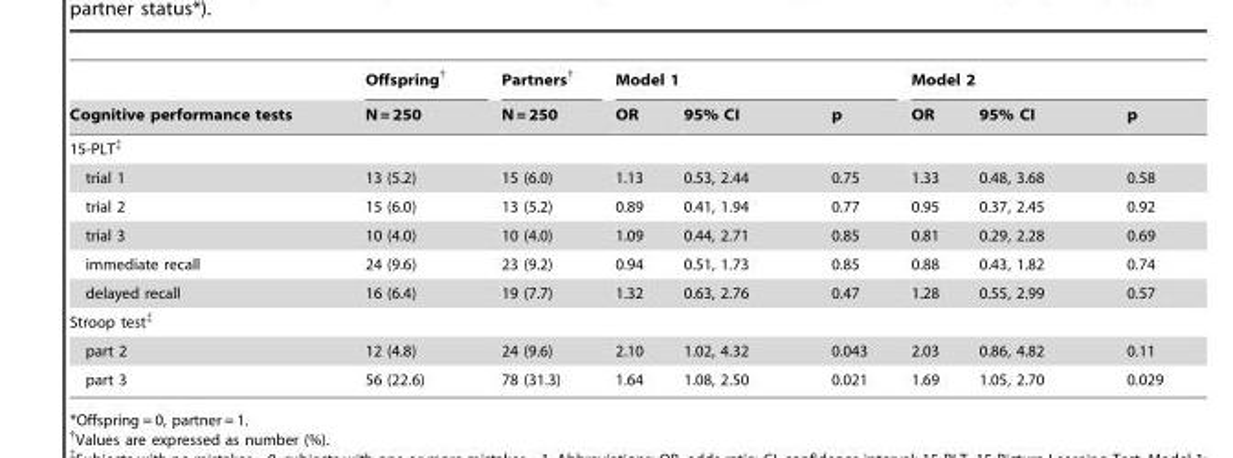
<table><thead><tr><td rowspan="2">Cognitive performance tests</td><td rowspan="2">Offspring† N = 250</td><td rowspan="2">Partners† N = 250</td><td colspan="3">Model 1</td><td colspan="3">Model 2</td></tr><tr><td>OR</td><td>95% CI</td><td>p</td><td>OR</td><td>95% CI</td><td>p</td></tr></thead><tbody><tr><td colspan="9">15-PLT‡</td></tr><tr><td>trial 1</td><td>13 (5.2)</td><td>15 (6.0)</td><td>1.13</td><td>0.53, 2.44</td><td>0.75</td><td>1.33</td><td>0.48, 3.68</td><td>0.58</td></tr><tr><td>trial 2</td><td>15 (6.0)</td><td>13 (5.2)</td><td>0.89</td><td>0.41, 1.94</td><td>0.77</td><td>0.95</td><td>0.37, 2.45</td><td>0.92</td></tr><tr><td>trial 3</td><td>10 (4.0)</td><td>10 (4.0)</td><td>1.09</td><td>0.44, 2.71</td><td>0.85</td><td>0.81</td><td>0.29, 2.28</td><td>0.69</td></tr><tr><td>immediate recall</td><td>24 (9.6)</td><td>23 (9.2)</td><td>0.94</td><td>0.51, 1.73</td><td>0.85</td><td>0.88</td><td>0.43, 1.82</td><td>0.74</td></tr><tr><td>delayed recall</td><td>16 (6.4)</td><td>19 (7.7)</td><td>1.32</td><td>0.63, 2.76</td><td>0.47</td><td>1.28</td><td>0.55, 2.99</td><td>0.57</td></tr><tr><td colspan="9">Stroop test‡</td></tr><tr><td>part 2</td><td>12 (4.8)</td><td>24 (9.6)</td><td>2.10</td><td>1.02, 4.32</td><td>0.043</td><td>2.03</td><td>0.86, 4.82</td><td>0.11</td></tr><tr><td>part 3</td><td>56 (22.6)</td><td>78 (31.3)</td><td>1.64</td><td>1.08, 2.50</td><td>0.021</td><td>1.69</td><td>1.05, 2.70</td><td>0.029</td></tr></tbody></table>